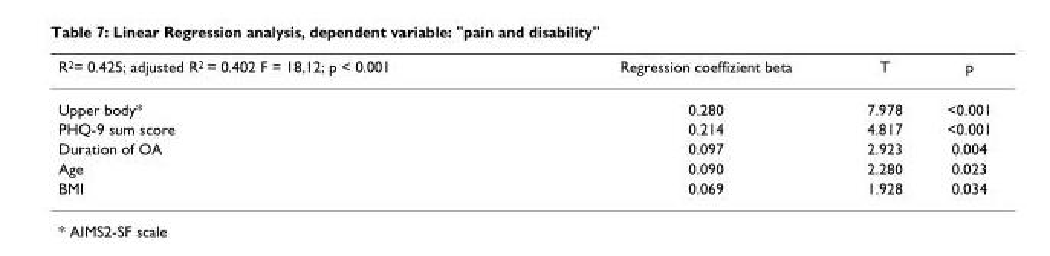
<table><thead><tr><td>R<sup>2</sup>= 0.425; adjusted R<sup>2</sup> = 0.402 F = 18,12; p &lt; 0.001</td><td>Regression coeffizient beta</td><td>T</td><td>p</td></tr></thead><tbody><tr><td>Upper body*</td><td>0.280</td><td>7.978</td><td>&lt;0.001</td></tr><tr><td>PHQ-9 sum score</td><td>0.214</td><td>4.817</td><td>&lt;0.001</td></tr><tr><td>Duration of OA</td><td>0.097</td><td>2.923</td><td>0.004</td></tr><tr><td>Age</td><td>0.090</td><td>2.280</td><td>0.023</td></tr><tr><td>BMI</td><td>0.069</td><td>1.928</td><td>0.034</td></tr></tbody></table>